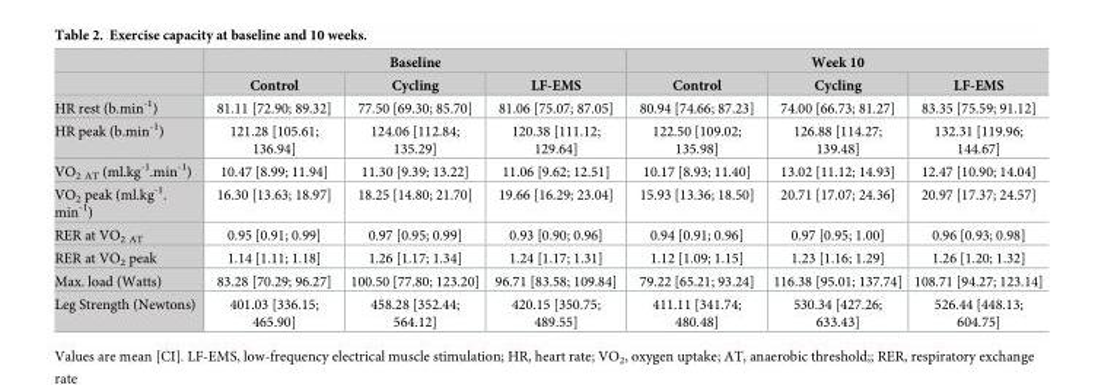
<table><thead><tr><td rowspan="2"></td><td colspan="3">Baseline</td><td colspan="3">Week 10</td></tr><tr><td>Control</td><td>Cycling</td><td>LF-EMS</td><td>Control</td><td>Cycling</td><td>LF-EMS</td></tr></thead><tbody><tr><td>HR rest (b.min<sup>-1</sup>)</td><td>81.11 [72.90; 89.32]</td><td>77.50 [69.30; 85.70]</td><td>81.06 [75.07; 87.05]</td><td>80.94 [74.66; 87.23]</td><td>74.00 [66.73; 81.27]</td><td>83.35 [75.59; 91.12]</td></tr><tr><td>HR peak (b.min<sup>-1</sup>)</td><td>121.28 [105.61; 136.94]</td><td>124.06 [112.84; 135.29]</td><td>120.38 [111.12; 129.64]</td><td>122.50 [109.02; 135.98]</td><td>126.88 [114.27; 139.48]</td><td>132.31 [119.96; 144.67]</td></tr><tr><td>VO<sub>2 AT</sub> (ml.kg<sup>-1</sup>.min<sup>-1</sup>)</td><td>10.47 [8.99; 11.94]</td><td>11.30 [9.39; 13.22]</td><td>11.06 [9.62; 12.51]</td><td>10.17 [8.93; 11.40]</td><td>13.02 [11.12; 14.93]</td><td>12.47 [10.90; 14.04]</td></tr><tr><td>VO<sub>2</sub> peak (ml.kg<sup>-1</sup>. min<sup>-1</sup>)</td><td>16.30 [13.63; 18.97]</td><td>18.25 [14.80; 21.70]</td><td>19.66 [16.29; 23.04]</td><td>15.93 [13.36; 18.50]</td><td>20.71 [17.07; 24.36]</td><td>20.97 [17.37; 24.57]</td></tr><tr><td>RER at VO<sub>2 AT</sub></td><td>0.95 [0.91; 0.99]</td><td>0.97 [0.95; 0.99]</td><td>0.93 [0.90; 0.96]</td><td>0.94 [0.91; 0.96]</td><td>0.97 [0.95; 1.00]</td><td>0.96 [0.93; 0.98]</td></tr><tr><td>RER at VO<sub>2</sub> peak</td><td>1.14 [1.11; 1.18]</td><td>1.26 [1.17; 1.34]</td><td>1.24 [1.17; 1.31]</td><td>1.12 [1.09; 1.15]</td><td>1.23 [1.16; 1.29]</td><td>1.26 [1.20; 1.32]</td></tr><tr><td>Max. load (Watts)</td><td>83.28 [70.29; 96.27]</td><td>100.50 [77.80; 123.20]</td><td>96.71 [83.58; 109.84]</td><td>79.22 [65.21; 93.24]</td><td>116.38 [95.01; 137.74]</td><td>108.71 [94.27; 123.14]</td></tr><tr><td>Leg Strength (Newtons)</td><td>401.03 [336.15; 465.90]</td><td>458.28 [352.44; 564.12]</td><td>420.15 [350.75; 489.55]</td><td>411.11 [341.74; 480.48]</td><td>530.34 [427.26; 633.43]</td><td>526.44 [448.13; 604.75]</td></tr></tbody></table>